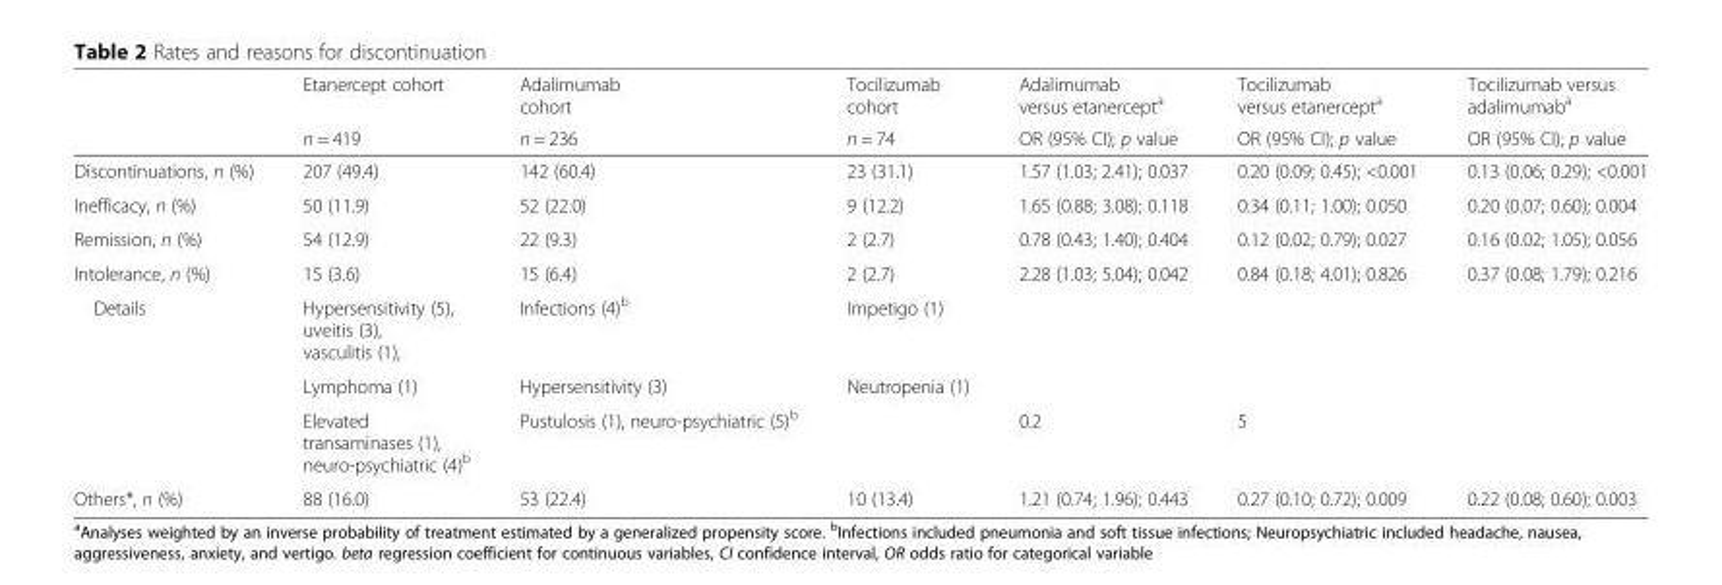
<table><thead><tr><td rowspan="2"></td><td rowspan="2">Etanercept cohort n = 419</td><td rowspan="2">Adalimumab cohort n = 236</td><td rowspan="2">Tocilizumab cohort n = 74</td><td rowspan="2">Adalimumab versus etanercept<sup>a</sup> OR (95% CI); p value</td><td rowspan="2">Tocilizumab versus etanercept<sup>a</sup> OR (95% CI); p value</td><td rowspan="2">Tocilizumab versus adalimumab<sup>a</sup> OR (95% CI); p value</td></tr><tr></tr></thead><tbody><tr><td>Discontinuations, n (%)</td><td>207 (49.4)</td><td>142 (60.4)</td><td>23 (31.1)</td><td>1.57 (1.03; 2.41); 0.037</td><td>0.20 (0.09; 0.45); &lt;0.001</td><td>0.13 (0.06; 0.29); &lt;0.001</td></tr><tr><td>Inefficacy, n (%)</td><td>50 (11.9)</td><td>52 (22.0)</td><td>9 (12.2)</td><td>1.65 (0.88; 3.08); 0.118</td><td>0.34 (0.11; 1.00); 0.050</td><td>0.20 (0.07; 0.60); 0.004</td></tr><tr><td>Remission, n (%)</td><td>54 (12.9)</td><td>22 (9.3)</td><td>2 (2.7)</td><td>0.78 (0.43; 1.40); 0.404</td><td>0.12 (0.02; 0.79); 0.027</td><td>0.16 (0.02; 1.05); 0.056</td></tr><tr><td>Intolerance, n (%)</td><td>15 (3.6)</td><td>15 (6.4)</td><td>2 (2.7)</td><td>2.28 (1.03; 5.04); 0.042</td><td>0.84 (0.18; 4.01); 0.826</td><td>0.37 (0.08; 1.79); 0.216</td></tr><tr><td rowspan="3">Details</td><td>Hypersensitivity (5), uveitis (3), vasculitis (1),</td><td>Infections (4)<sup>b</sup></td><td>Impetigo (1)</td><td></td><td></td><td></td></tr><tr><td>Lymphoma (1)</td><td>Hypersensitivity (3)</td><td>Neutropenia (1)</td><td></td><td></td><td></td></tr><tr><td>Elevated transaminases (1), neuro-psychiatric (4)<sup>b</sup></td><td>Pustulosis (1), neuro-psychiatric (5)<sup>b</sup></td><td></td><td>0.2</td><td>5</td><td></td></tr><tr><td>Others*, n (%)</td><td>88 (16.0)</td><td>53 (22.4)</td><td>10 (13.4)</td><td>1.21 (0.74; 1.96); 0.443</td><td>0.27 (0.10; 0.72); 0.009</td><td>0.22 (0.08; 0.60); 0.003</td></tr></tbody></table>